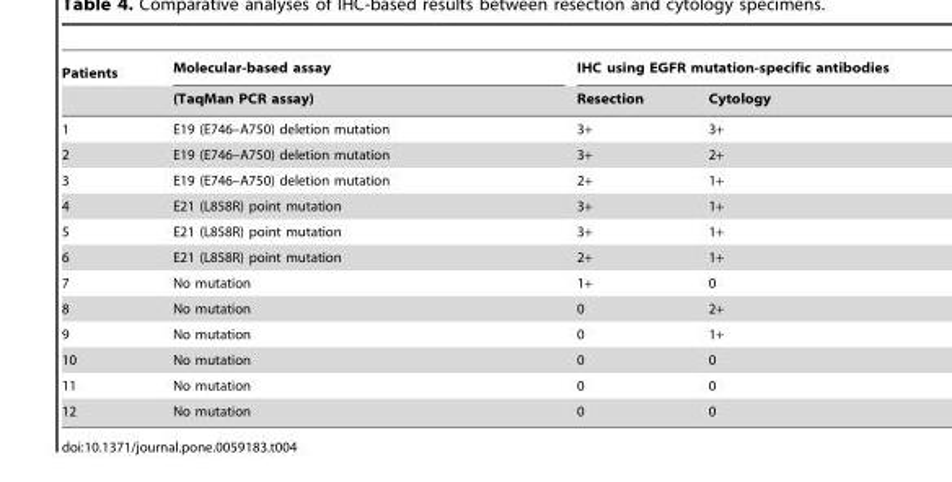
<table><thead><tr><td rowspan="2">Patients</td><td rowspan="2">Molecular-based assay (TaqMan PCR assay)</td><td colspan="2">IHC using EGFR mutation-specific antibodies</td></tr><tr><td>Resection</td><td>Cytology</td></tr></thead><tbody><tr><td>1</td><td>E19 (E746–A750) deletion mutation</td><td>3+</td><td>3+</td></tr><tr><td>2</td><td>E19 (E746–A750) deletion mutation</td><td>3+</td><td>2+</td></tr><tr><td>3</td><td>E19 (E746–A750) deletion mutation</td><td>2+</td><td>1+</td></tr><tr><td>4</td><td>E21 (L858R) point mutation</td><td>3+</td><td>1+</td></tr><tr><td>5</td><td>E21 (L858R) point mutation</td><td>3+</td><td>1+</td></tr><tr><td>6</td><td>E21 (L858R) point mutation</td><td>2+</td><td>1+</td></tr><tr><td>7</td><td>No mutation</td><td>1+</td><td>0</td></tr><tr><td>8</td><td>No mutation</td><td>0</td><td>2+</td></tr><tr><td>9</td><td>No mutation</td><td>0</td><td>1+</td></tr><tr><td>10</td><td>No mutation</td><td>0</td><td>0</td></tr><tr><td>11</td><td>No mutation</td><td>0</td><td>0</td></tr><tr><td>12</td><td>No mutation</td><td>0</td><td>0</td></tr></tbody></table>